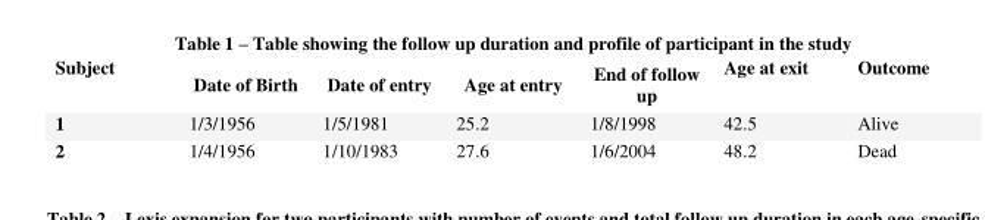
<table><thead><tr><td>Subject</td><td>Date of Birth</td><td>Date of entry</td><td>Age at entry</td><td>End of follow up</td><td>Age at exit</td><td>Outcome</td></tr></thead><tbody><tr><td>1</td><td>1/3/1956</td><td>1/5/1981</td><td>25.2</td><td>1/8/1998</td><td>42.5</td><td>Alive</td></tr><tr><td>2</td><td>1/4/1956</td><td>1/10/1983</td><td>27.6</td><td>1/6/2004</td><td>48.2</td><td>Dead</td></tr></tbody></table>